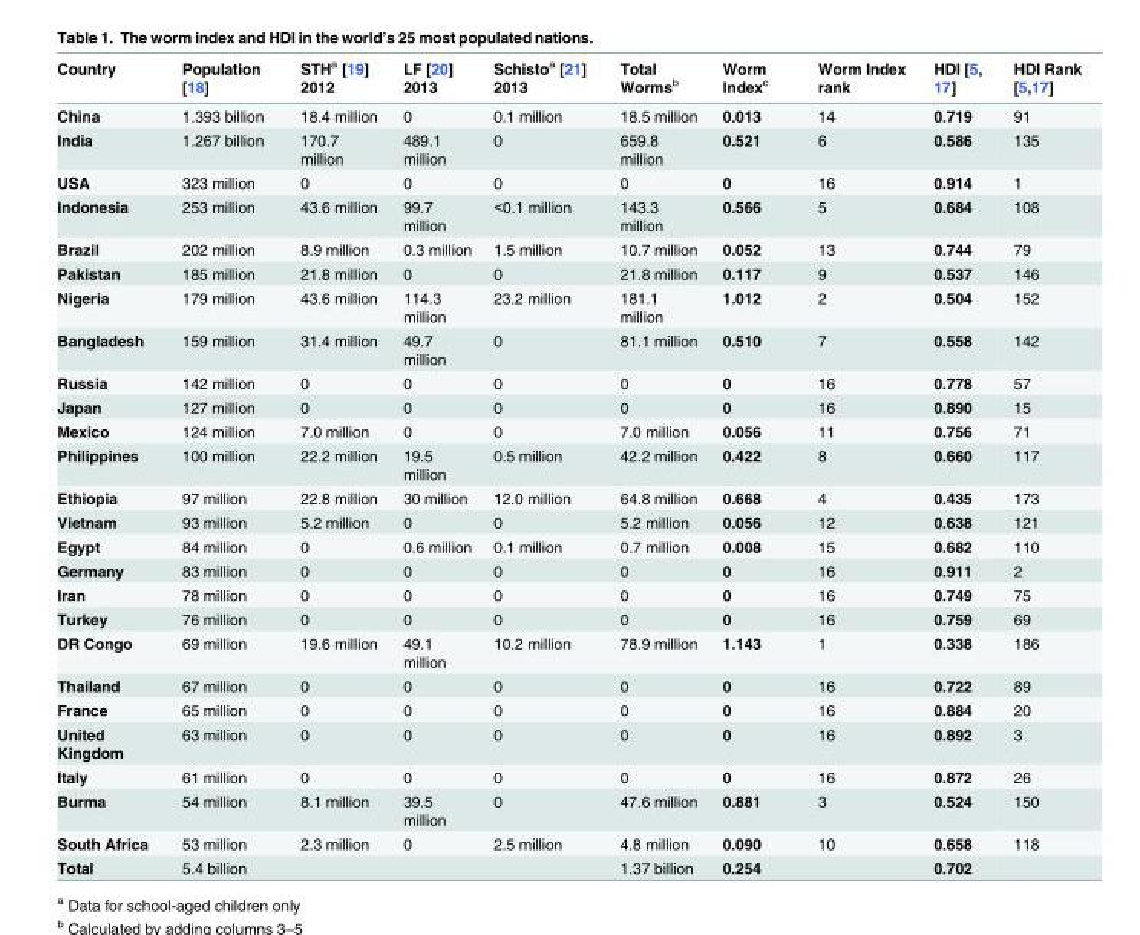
<table><thead><tr><td>Country</td><td>Population [18]</td><td>STH<sup>a</sup> [19] 2012</td><td>LF [20] 2013</td><td>Schisto<sup>a</sup> [21] 2013</td><td>Total Worms<sup>b</sup></td><td>Worm Index<sup>c</sup></td><td>Worm Index rank</td><td>HDI [5, 17]</td><td>HDI Rank [5,17]</td></tr></thead><tbody><tr><td>China</td><td>1.393 billion</td><td>18.4 million</td><td>0</td><td>0.1 million</td><td>18.5 million</td><td>0.013</td><td>14</td><td>0.719</td><td>91</td></tr><tr><td>India</td><td>1.267 billion</td><td>170.7 million</td><td>489.1 million</td><td>0</td><td>659.8 million</td><td>0.521</td><td>6</td><td>0.586</td><td>135</td></tr><tr><td>USA</td><td>323 million</td><td>0</td><td>0</td><td>0</td><td>0</td><td>0</td><td>16</td><td>0.914</td><td>1</td></tr><tr><td>Indonesia</td><td>253 million</td><td>43.6 million</td><td>99.7 million</td><td>&lt;0.1 million</td><td>143.3 million</td><td>0.566</td><td>5</td><td>0.684</td><td>108</td></tr><tr><td>Brazil</td><td>202 million</td><td>8.9 million</td><td>0.3 million</td><td>1.5 million</td><td>10.7 million</td><td>0.052</td><td>13</td><td>0.744</td><td>79</td></tr><tr><td>Pakistan</td><td>185 million</td><td>21.8 million</td><td>0</td><td>0</td><td>21.8 million</td><td>0.117</td><td>9</td><td>0.537</td><td>146</td></tr><tr><td>Nigeria</td><td>179 million</td><td>43.6 million</td><td>114.3 million</td><td>23.2 million</td><td>181.1 million</td><td>1.012</td><td>2</td><td>0.504</td><td>152</td></tr><tr><td>Bangladesh</td><td>159 million</td><td>31.4 million</td><td>49.7 million</td><td>0</td><td>81.1 million</td><td>0.510</td><td>7</td><td>0.558</td><td>142</td></tr><tr><td>Russia</td><td>142 million</td><td>0</td><td>0</td><td>0</td><td>0</td><td>0</td><td>16</td><td>0.778</td><td>57</td></tr><tr><td>Japan</td><td>127 million</td><td>0</td><td>0</td><td>0</td><td>0</td><td>0</td><td>16</td><td>0.890</td><td>15</td></tr><tr><td>Mexico</td><td>124 million</td><td>7.0 million</td><td>0</td><td>0</td><td>7.0 million</td><td>0.056</td><td>11</td><td>0.756</td><td>71</td></tr><tr><td>Philippines</td><td>100 million</td><td>22.2 million</td><td>19.5 million</td><td>0.5 million</td><td>42.2 million</td><td>0.422</td><td>8</td><td>0.660</td><td>117</td></tr><tr><td>Ethiopia</td><td>97 million</td><td>22.8 million</td><td>30 million</td><td>12.0 million</td><td>64.8 million</td><td>0.668</td><td>4</td><td>0.435</td><td>173</td></tr><tr><td>Vietnam</td><td>93 million</td><td>5.2 million</td><td>0</td><td>0</td><td>5.2 million</td><td>0.056</td><td>12</td><td>0.638</td><td>121</td></tr><tr><td>Egypt</td><td>84 million</td><td>0</td><td>0.6 million</td><td>0.1 million</td><td>0.7 million</td><td>0.008</td><td>15</td><td>0.682</td><td>110</td></tr><tr><td>Germany</td><td>83 million</td><td>0</td><td>0</td><td>0</td><td>0</td><td>0</td><td>16</td><td>0.911</td><td>2</td></tr><tr><td>Iran</td><td>78 million</td><td>0</td><td>0</td><td>0</td><td>0</td><td>0</td><td>16</td><td>0.749</td><td>75</td></tr><tr><td>Turkey</td><td>76 million</td><td>0</td><td>0</td><td>0</td><td>0</td><td>0</td><td>16</td><td>0.759</td><td>69</td></tr><tr><td>DR Congo</td><td>69 million</td><td>19.6 million</td><td>49.1 million</td><td>10.2 million</td><td>78.9 million</td><td>1.143</td><td>1</td><td>0.338</td><td>186</td></tr><tr><td>Thailand</td><td>67 million</td><td>0</td><td>0</td><td>0</td><td>0</td><td>0</td><td>16</td><td>0.722</td><td>89</td></tr><tr><td>France</td><td>65 million</td><td>0</td><td>0</td><td>0</td><td>0</td><td>0</td><td>16</td><td>0.884</td><td>20</td></tr><tr><td>United Kingdom</td><td>63 million</td><td>0</td><td>0</td><td>0</td><td>0</td><td>0</td><td>16</td><td>0.892</td><td>3</td></tr><tr><td>Italy</td><td>61 million</td><td>0</td><td>0</td><td>0</td><td>0</td><td>0</td><td>16</td><td>0.872</td><td>26</td></tr><tr><td>Burma</td><td>54 million</td><td>8.1 million</td><td>39.5 million</td><td>0</td><td>47.6 million</td><td>0.881</td><td>3</td><td>0.524</td><td>150</td></tr><tr><td>South Africa</td><td>53 million</td><td>2.3 million</td><td>0</td><td>2.5 million</td><td>4.8 million</td><td>0.090</td><td>10</td><td>0.658</td><td>118</td></tr><tr><td>Total</td><td>5.4 billion</td><td></td><td></td><td></td><td>1.37 billion</td><td>0.254</td><td></td><td>0.702</td><td></td></tr></tbody></table>